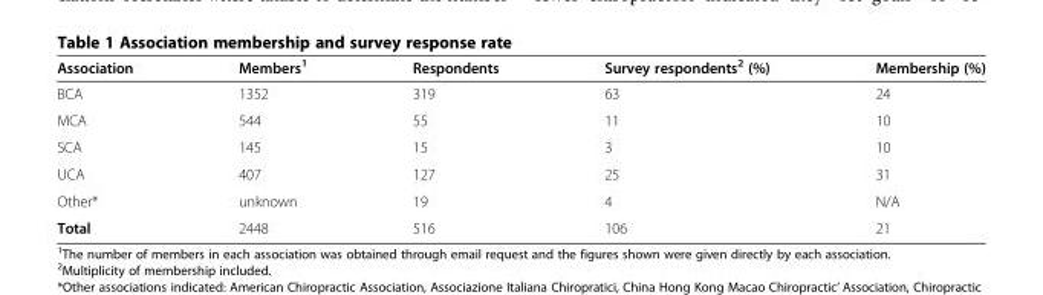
<table><thead><tr><td>Association</td><td>Members<sup>1</sup></td><td>Respondents</td><td>Survey respondents<sup>2</sup> (%)</td><td>Membership (%)</td></tr></thead><tbody><tr><td>BCA</td><td>1352</td><td>319</td><td>63</td><td>24</td></tr><tr><td>MCA</td><td>544</td><td>55</td><td>11</td><td>10</td></tr><tr><td>SCA</td><td>145</td><td>15</td><td>3</td><td>10</td></tr><tr><td>UCA</td><td>407</td><td>127</td><td>25</td><td>31</td></tr><tr><td>Other*</td><td>unknown</td><td>19</td><td>4</td><td>N/A</td></tr><tr><td>Total</td><td>2448</td><td>516</td><td>106</td><td>21</td></tr></tbody></table>